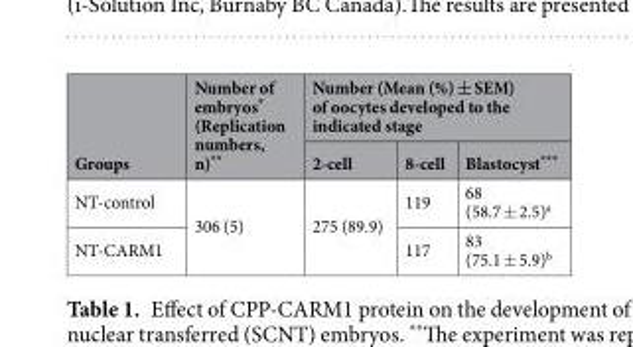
<table><thead><tr><td rowspan="2">Groups</td><td rowspan="2">Number of embryos* (Replication numbers, n)**</td><td colspan="3">Number (Mean (%) ± SEM) of oocytes developed to the indicated stage</td></tr><tr><td>2-cell</td><td>8-cell</td><td>Blastocyst***</td></tr></thead><tbody><tr><td>NT-control</td><td rowspan="2">306 (5)</td><td rowspan="2">275 (89.9)</td><td>119</td><td>68 (58.7 ± 2.5)<sup>a</sup></td></tr><tr><td>NT-CARM1</td><td>117</td><td>83 (75.1 ± 5.9)<sup>b</sup></td></tr></tbody></table>